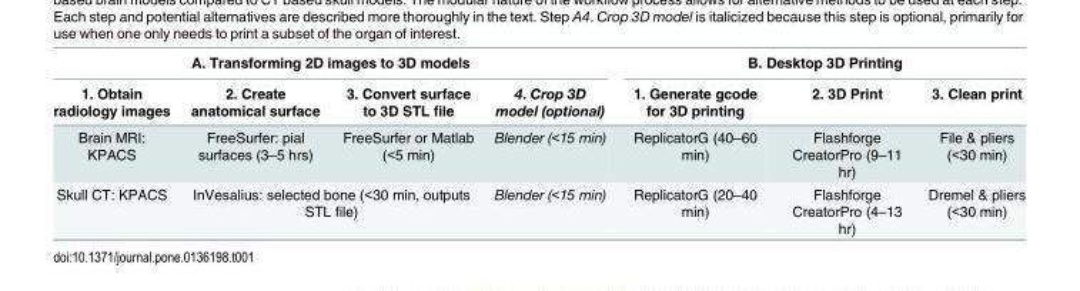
<table><thead><tr><td colspan="4">A. Transforming 2D images to 3D models</td><td colspan="3">B. Desktop 3D Printing</td></tr><tr><td>1. Obtain radiology images</td><td>2. Create anatomical surface</td><td>3. Convert surface to 3D STL file</td><td>4. Crop 3D model (optional)</td><td>1. Generate gcode for 3D printing</td><td>2. 3D Print</td><td>3. Clean print</td></tr></thead><tbody><tr><td>Brain MRI: KPACS</td><td>FreeSurfer: pial surfaces (3–5 hrs)</td><td>FreeSurfer or Matlab (&lt;5 min)</td><td>Blender (&lt;15 min)</td><td>ReplicatorG (40–60 min)</td><td>Flashforge CreatorPro (9–11 hr)</td><td>File &amp; pliers (&lt;30 min)</td></tr><tr><td>Skull CT: KPACS</td><td colspan="2">InVesalius: selected bone (&lt;30 min, outputs STL file)</td><td>Blender (&lt;15 min)</td><td>ReplicatorG (20–40 min)</td><td>Flashforge CreatorPro (4–13 hr)</td><td>Dremel &amp; pliers (&lt;30 min)</td></tr></tbody></table>